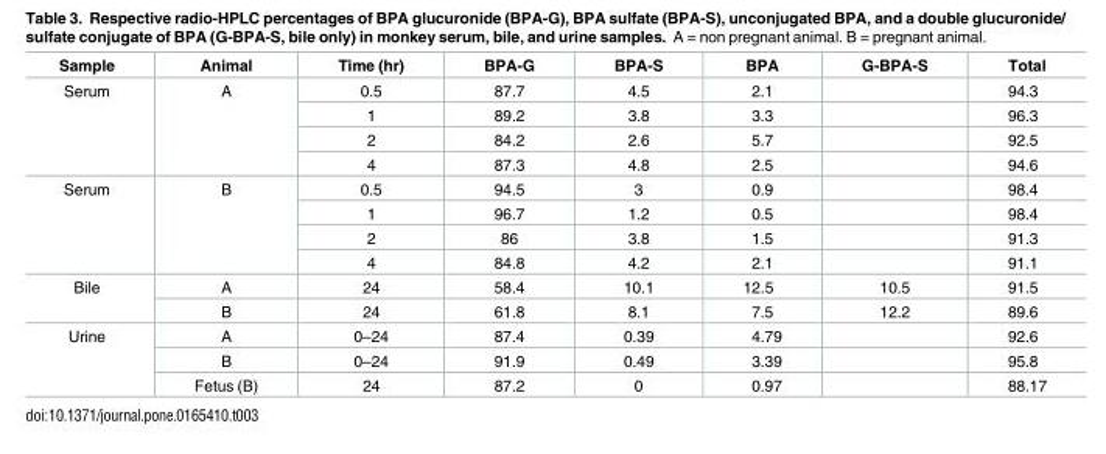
<table><thead><tr><td>Sample</td><td>Animal</td><td>Time (hr)</td><td>BPA-G</td><td>BPA-S</td><td>BPA</td><td>G-BPA-S</td><td>Total</td></tr></thead><tbody><tr><td rowspan="4">Serum</td><td rowspan="4">A</td><td>0.5</td><td>87.7</td><td>4.5</td><td>2.1</td><td></td><td>94.3</td></tr><tr><td>1</td><td>89.2</td><td>3.8</td><td>3.3</td><td></td><td>96.3</td></tr><tr><td>2</td><td>84.2</td><td>2.6</td><td>5.7</td><td></td><td>92.5</td></tr><tr><td>4</td><td>87.3</td><td>4.8</td><td>2.5</td><td></td><td>94.6</td></tr><tr><td rowspan="4">Serum</td><td rowspan="4">B</td><td>0.5</td><td>94.5</td><td>3</td><td>0.9</td><td></td><td>98.4</td></tr><tr><td>1</td><td>96.7</td><td>1.2</td><td>0.5</td><td></td><td>98.4</td></tr><tr><td>2</td><td>86</td><td>3.8</td><td>1.5</td><td></td><td>91.3</td></tr><tr><td>4</td><td>84.8</td><td>4.2</td><td>2.1</td><td></td><td>91.1</td></tr><tr><td rowspan="2">Bile</td><td>A</td><td>24</td><td>58.4</td><td>10.1</td><td>12.5</td><td>10.5</td><td>91.5</td></tr><tr><td>B</td><td>24</td><td>61.8</td><td>8.1</td><td>7.5</td><td>12.2</td><td>89.6</td></tr><tr><td rowspan="3">Urine</td><td>A</td><td>0–24</td><td>87.4</td><td>0.39</td><td>4.79</td><td></td><td>92.6</td></tr><tr><td>B</td><td>0–24</td><td>91.9</td><td>0.49</td><td>3.39</td><td></td><td>95.8</td></tr><tr><td>Fetus (B)</td><td>24</td><td>87.2</td><td>0</td><td>0.97</td><td></td><td>88.17</td></tr></tbody></table>